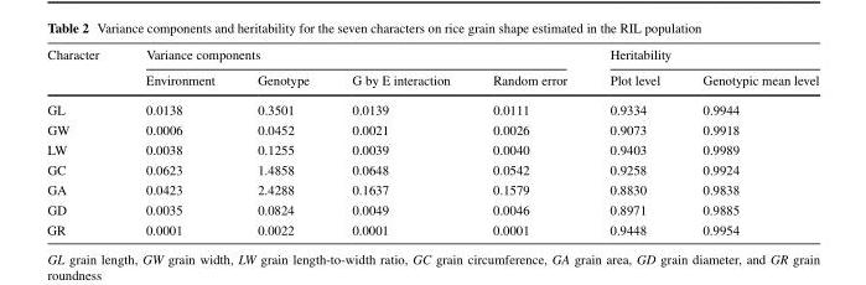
<table><thead><tr><td rowspan="2">Character</td><td colspan="4">Variance components</td><td colspan="2">Heritability</td></tr><tr><td>Environment</td><td>Genotype</td><td>G by E interaction</td><td>Random error</td><td>Plot level</td><td>Genotypic mean level</td></tr></thead><tbody><tr><td>GL</td><td>0.0138</td><td>0.3501</td><td>0.0139</td><td>0.0111</td><td>0.9334</td><td>0.9944</td></tr><tr><td>GW</td><td>0.0006</td><td>0.0452</td><td>0.0021</td><td>0.0026</td><td>0.9073</td><td>0.9918</td></tr><tr><td>LW</td><td>0.0038</td><td>0.1255</td><td>0.0039</td><td>0.0040</td><td>0.9403</td><td>0.9989</td></tr><tr><td>GC</td><td>0.0623</td><td>1.4858</td><td>0.0648</td><td>0.0542</td><td>0.9258</td><td>0.9924</td></tr><tr><td>GA</td><td>0.0423</td><td>2.4288</td><td>0.1637</td><td>0.1579</td><td>0.8830</td><td>0.9838</td></tr><tr><td>GD</td><td>0.0035</td><td>0.0824</td><td>0.0049</td><td>0.0046</td><td>0.8971</td><td>0.9885</td></tr><tr><td>GR</td><td>0.0001</td><td>0.0022</td><td>0.0001</td><td>0.0001</td><td>0.9448</td><td>0.9954</td></tr></tbody></table>